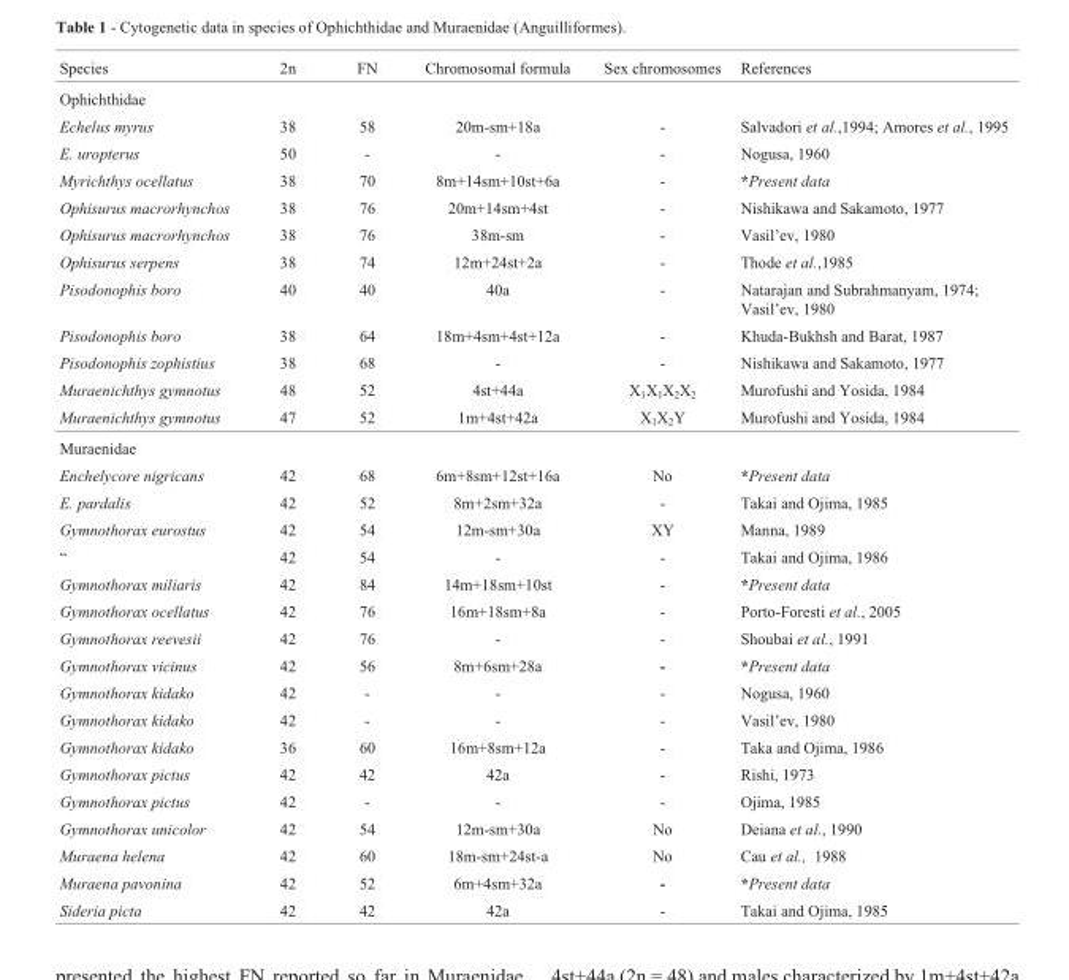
<table><thead><tr><td>Species</td><td>2n</td><td>FN</td><td>Chromosomal formula</td><td>Sex chromosomes</td><td>References</td></tr></thead><tbody><tr><td colspan="6">Ophichthidae</td></tr><tr><td>Echelus myrus</td><td>38</td><td>58</td><td>20m-sm+18a</td><td>-</td><td>Salvadori et al.,1994; Amores et al., 1995</td></tr><tr><td>E. uropterus</td><td>50</td><td>-</td><td>-</td><td>-</td><td>Nogusa, 1960</td></tr><tr><td>Myrichthys ocellatus</td><td>38</td><td>70</td><td>8m+14sm+10st+6a</td><td>-</td><td>*Present data</td></tr><tr><td>Ophisurus macrorhynchos</td><td>38</td><td>76</td><td>20m+14sm+4st</td><td>-</td><td>Nishikawa and Sakamoto, 1977</td></tr><tr><td>Ophisurus macrorhynchos</td><td>38</td><td>76</td><td>38m-sm</td><td>-</td><td>Vasil’ev, 1980</td></tr><tr><td>Ophisurus serpens</td><td>38</td><td>74</td><td>12m+24st+2a</td><td>-</td><td>Thode et al.,1985</td></tr><tr><td>Pisodonophis boro</td><td>40</td><td>40</td><td>40a</td><td>-</td><td>Natarajan and Subrahmanyam, 1974; Vasil’ev, 1980</td></tr><tr><td>Pisodonophis boro</td><td>38</td><td>64</td><td>18m+4sm+4st+12a</td><td>-</td><td>Khuda-Bukhsh and Barat, 1987</td></tr><tr><td>Pisodonophis zophistius</td><td>38</td><td>68</td><td>-</td><td>-</td><td>Nishikawa and Sakamoto, 1977</td></tr><tr><td>Muraenichthys gymnotus</td><td>48</td><td>52</td><td>4st+44a</td><td>X<sub>1</sub>X<sub>1</sub>X<sub>2</sub>X<sub>2</sub></td><td>Murofushi and Yosida, 1984</td></tr><tr><td>Muraenichthys gymnotus</td><td>47</td><td>52</td><td>1m+4st+42a</td><td>X<sub>1</sub>X<sub>2</sub>Y</td><td>Murofushi and Yosida, 1984</td></tr><tr><td colspan="6">Muraenidae</td></tr><tr><td>Enchelycore nigricans</td><td>42</td><td>68</td><td>6m+8sm+12st+16a</td><td>No</td><td>*Present data</td></tr><tr><td>E. pardalis</td><td>42</td><td>52</td><td>8m+2sm+32a</td><td>-</td><td>Takai and Ojima, 1985</td></tr><tr><td>Gymnothorax eurostus</td><td>42</td><td>54</td><td>12m-sm+30a</td><td>XY</td><td>Manna, 1989</td></tr><tr><td>“</td><td>42</td><td>54</td><td>-</td><td>-</td><td>Takai and Ojima, 1986</td></tr><tr><td>Gymnothorax miliaris</td><td>42</td><td>84</td><td>14m+18sm+10st</td><td>-</td><td>*Present data</td></tr><tr><td>Gymnothorax ocellatus</td><td>42</td><td>76</td><td>16m+18sm+8a</td><td>-</td><td>Porto-Foresti et al., 2005</td></tr><tr><td>Gymnothorax reevesii</td><td>42</td><td>76</td><td>-</td><td>-</td><td>Shoubai et al., 1991</td></tr><tr><td>Gymnothorax vicinus</td><td>42</td><td>56</td><td>8m+6sm+28a</td><td>-</td><td>*Present data</td></tr><tr><td>Gymnothorax kidako</td><td>42</td><td>-</td><td>-</td><td>-</td><td>Nogusa, 1960</td></tr><tr><td>Gymnothorax kidako</td><td>42</td><td>-</td><td>-</td><td>-</td><td>Vasil’ev, 1980</td></tr><tr><td>Gymnothorax kidako</td><td>36</td><td>60</td><td>16m+8sm+12a</td><td>-</td><td>Taka and Ojima, 1986</td></tr><tr><td>Gymnothorax pictus</td><td>42</td><td>42</td><td>42a</td><td>-</td><td>Rishi, 1973</td></tr><tr><td>Gymnothorax pictus</td><td>42</td><td>-</td><td>-</td><td>-</td><td>Ojima, 1985</td></tr><tr><td>Gymnothorax unicolor</td><td>42</td><td>54</td><td>12m-sm+30a</td><td>No</td><td>Deiana et al., 1990</td></tr><tr><td>Muraena helena</td><td>42</td><td>60</td><td>18m-sm+24st-a</td><td>No</td><td>Cau et al., 1988</td></tr><tr><td>Muraena pavonina</td><td>42</td><td>52</td><td>6m+4sm+32a</td><td>-</td><td>*Present data</td></tr><tr><td>Sideria picta</td><td>42</td><td>42</td><td>42a</td><td>-</td><td>Takai and Ojima, 1985</td></tr></tbody></table>